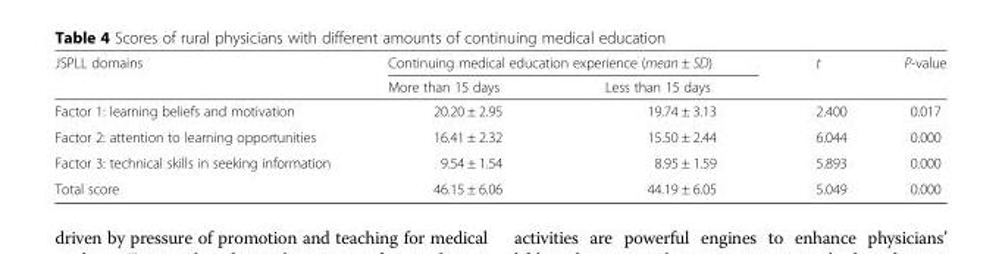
<table><thead><tr><td rowspan="2">JSPLL domains</td><td colspan="2">Continuing medical education experience (mean ± SD)</td><td rowspan="2">t</td><td rowspan="2">P-value</td></tr><tr><td>More than 15 days</td><td>Less than 15 days</td></tr></thead><tbody><tr><td>Factor 1: learning beliefs and motivation</td><td>20.20 ± 2.95</td><td>19.74 ± 3.13</td><td>2.400</td><td>0.017</td></tr><tr><td>Factor 2: attention to learning opportunities</td><td>16.41 ± 2.32</td><td>15.50 ± 2.44</td><td>6.044</td><td>0.000</td></tr><tr><td>Factor 3: technical skills in seeking information</td><td>9.54 ± 1.54</td><td>8.95 ± 1.59</td><td>5.893</td><td>0.000</td></tr><tr><td>Total score</td><td>46.15 ± 6.06</td><td>44.19 ± 6.05</td><td>5.049</td><td>0.000</td></tr></tbody></table>